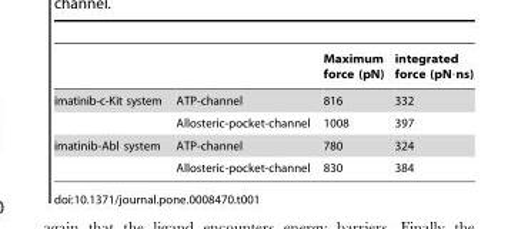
<table><thead><tr><td></td><td></td><td>Maximum force (pN)</td><td>integrated force (pN·ns)</td></tr></thead><tbody><tr><td rowspan="2">imatinib-c-Kit system</td><td>ATP-channel</td><td>816</td><td>332</td></tr><tr><td>Allosteric-pocket-channel</td><td>1008</td><td>397</td></tr><tr><td rowspan="2">imatinib-Abl system</td><td>ATP-channel</td><td>780</td><td>324</td></tr><tr><td>Allosteric-pocket-channel</td><td>830</td><td>384</td></tr></tbody></table>